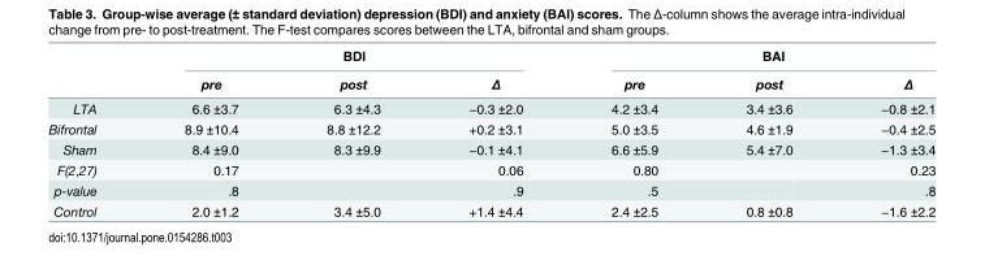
<table><thead><tr><td rowspan="2"></td><td colspan="3">BDI</td><td colspan="3">BAI</td></tr><tr><td>pre</td><td>post</td><td>Δ</td><td>pre</td><td>post</td><td>Δ</td></tr></thead><tbody><tr><td>LTA</td><td>6.6 ±3.7</td><td>6.3 ±4.3</td><td>−0.3 ±2.0</td><td>4.2 ±3.4</td><td>3.4 ±3.6</td><td>−0.8 ±2.1</td></tr><tr><td>Bifrontal</td><td>8.9 ±10.4</td><td>8.8 ±12.2</td><td>+0.2 ±3.1</td><td>5.0 ±3.5</td><td>4.6 ±1.9</td><td>−0.4 ±2.5</td></tr><tr><td>Sham</td><td>8.4 ±9.0</td><td>8.3 ±9.9</td><td>−0.1 ±4.1</td><td>6.6 ±5.9</td><td>5.4 ±7.0</td><td>−1.3 ±3.4</td></tr><tr><td>F(2,27)</td><td>0.17</td><td></td><td>0.06</td><td>0.80</td><td></td><td>0.23</td></tr><tr><td>p-value</td><td>.8</td><td></td><td>.9</td><td>.5</td><td></td><td>.8</td></tr><tr><td>Control</td><td>2.0 ±1.2</td><td>3.4 ±5.0</td><td>+1.4 ±4.4</td><td>2.4 ±2.5</td><td>0.8 ±0.8</td><td>−1.6 ±2.2</td></tr></tbody></table>